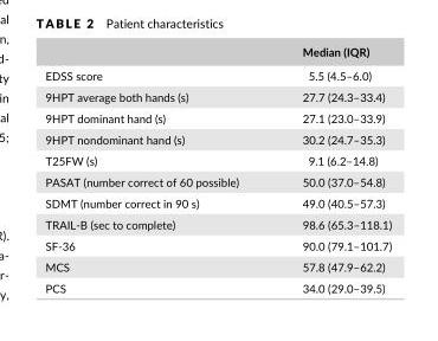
<table><thead><tr><td></td><td>Median (IQR)</td></tr></thead><tbody><tr><td>EDSS score</td><td>5.5 (4.5–6.0)</td></tr><tr><td>9HPT average both hands (s)</td><td>27.7 (24.3–33.4)</td></tr><tr><td>9HPT dominant hand (s)</td><td>27.1 (23.0–33.9)</td></tr><tr><td>9HPT nondominant hand (s)</td><td>30.2 (24.7–35.3)</td></tr><tr><td>T25FW (s)</td><td>9.1 (6.2–14.8)</td></tr><tr><td>PASAT (number correct of 60 possible)</td><td>50.0 (37.0–54.8)</td></tr><tr><td>SDMT (number correct in 90 s)</td><td>49.0 (40.5–57.3)</td></tr><tr><td>TRAIL- B (sec to complete)</td><td>98.6 (65.3–118.1)</td></tr><tr><td>SF- 36</td><td>90.0 (79.1–101.7)</td></tr><tr><td>MCS</td><td>57.8 (47.9–62.2)</td></tr><tr><td>PCS</td><td>34.0 (29.0–39.5)</td></tr></tbody></table>